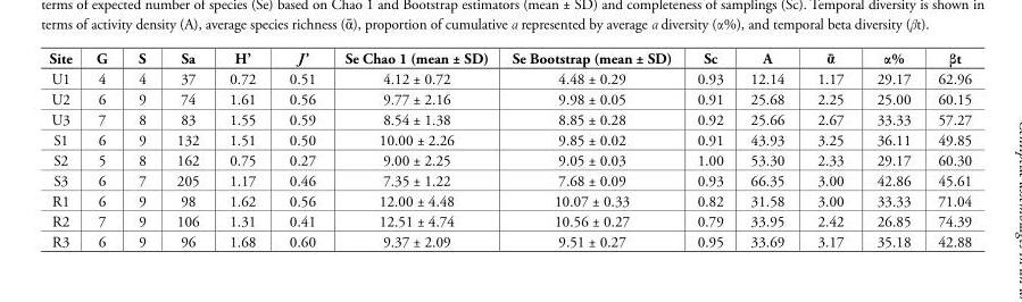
<table><thead><tr><td>Site</td><td>G</td><td>S</td><td>Sa</td><td>H’</td><td>J’</td><td>Se Chao 1 (mean ± SD)</td><td>Se Bootstrap (mean ± SD)</td><td>Sc</td><td>A</td><td>ᾱ</td><td>α%</td><td>βt</td></tr></thead><tbody><tr><td>U1</td><td>4</td><td>4</td><td>37</td><td>0.72</td><td>0.51</td><td>4.12 ± 0.72</td><td>4.48 ± 0.29</td><td>0.93</td><td>12.14</td><td>1.17</td><td>29.17</td><td>62.96</td></tr><tr><td>U2</td><td>6</td><td>9</td><td>74</td><td>1.61</td><td>0.56</td><td>9.77 ± 2.16</td><td>9.98 ± 0.05</td><td>0.91</td><td>25.68</td><td>2.25</td><td>25.00</td><td>60.15</td></tr><tr><td>U3</td><td>7</td><td>8</td><td>83</td><td>1.55</td><td>0.59</td><td>8.54 ± 1.38</td><td>8.85 ± 0.28</td><td>0.92</td><td>25.66</td><td>2.67</td><td>33.33</td><td>57.27</td></tr><tr><td>S1</td><td>6</td><td>9</td><td>132</td><td>1.51</td><td>0.50</td><td>10.00 ± 2.26</td><td>9.85 ± 0.02</td><td>0.91</td><td>43.93</td><td>3.25</td><td>36.11</td><td>49.85</td></tr><tr><td>S2</td><td>5</td><td>8</td><td>162</td><td>0.75</td><td>0.27</td><td>9.00 ± 2.25</td><td>9.05 ± 0.03</td><td>1.00</td><td>53.30</td><td>2.33</td><td>29.17</td><td>60.30</td></tr><tr><td>S3</td><td>6</td><td>7</td><td>205</td><td>1.17</td><td>0.46</td><td>7.35 ± 1.22</td><td>7.68 ± 0.09</td><td>0.93</td><td>66.35</td><td>3.00</td><td>42.86</td><td>45.61</td></tr><tr><td>R1</td><td>6</td><td>9</td><td>98</td><td>1.62</td><td>0.56</td><td>12.00 ± 4.48</td><td>10.07 ± 0.33</td><td>0.82</td><td>31.58</td><td>3.00</td><td>33.33</td><td>71.04</td></tr><tr><td>R2</td><td>7</td><td>9</td><td>106</td><td>1.31</td><td>0.41</td><td>12.51 ± 4.74</td><td>10.56 ± 0.27</td><td>0.79</td><td>33.95</td><td>2.42</td><td>26.85</td><td>74.39</td></tr><tr><td>R3</td><td>6</td><td>9</td><td>96</td><td>1.68</td><td>0.60</td><td>9.37 ± 2.09</td><td>9.51 ± 0.27</td><td>0.95</td><td>33.69</td><td>3.17</td><td>35.18</td><td>42.88</td></tr></tbody></table>